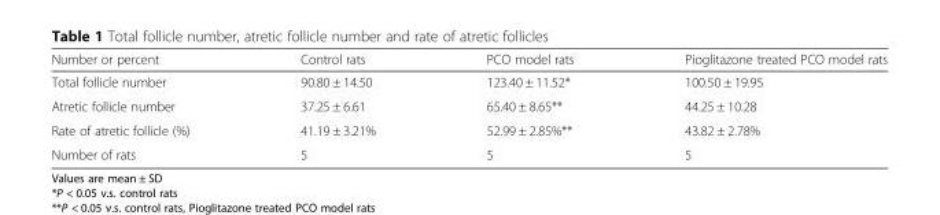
<table><thead><tr><td>Number or percent</td><td>Control rats</td><td>PCO model rats</td><td>Pioglitazone treated PCO model rats</td></tr></thead><tbody><tr><td>Total follicle number</td><td>90.80 ± 14.50</td><td>123.40 ± 11.52*</td><td>100.50 ± 19.95</td></tr><tr><td>Atretic follicle number</td><td>37.25 ± 6.61</td><td>65.40 ± 8.65**</td><td>44.25 ± 10.28</td></tr><tr><td>Rate of atretic follicle (%)</td><td>41.19 ± 3.21%</td><td>52.99 ± 2.85%**</td><td>43.82 ± 2.78%</td></tr><tr><td>Number of rats</td><td>5</td><td>5</td><td>5</td></tr></tbody></table>